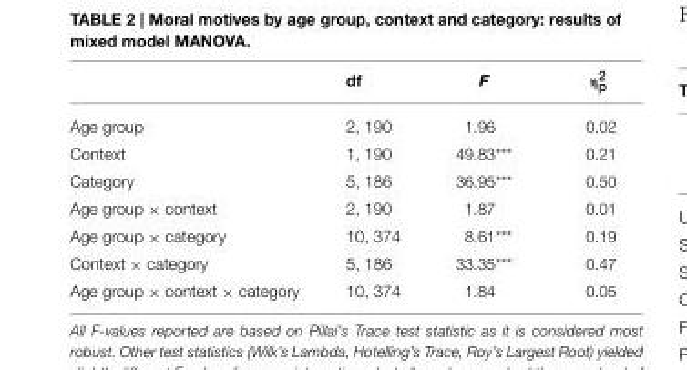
<table><thead><tr><td></td><td>df</td><td>F</td><td>η<sup>2</sup><sub>p</sub></td></tr></thead><tbody><tr><td>Age group</td><td>2, 190</td><td>1.96</td><td>0.02</td></tr><tr><td>Context</td><td>1, 190</td><td>49.83***</td><td>0.21</td></tr><tr><td>Category</td><td>5, 186</td><td>36.95***</td><td>0.50</td></tr><tr><td>Age group × context</td><td>2, 190</td><td>1.87</td><td>0.01</td></tr><tr><td>Age group × category</td><td>10, 374</td><td>8.61***</td><td>0.19</td></tr><tr><td>Context × category</td><td>5, 186</td><td>33.35***</td><td>0.47</td></tr><tr><td>Age group × context × category</td><td>10, 374</td><td>1.84</td><td>0.05</td></tr></tbody></table>